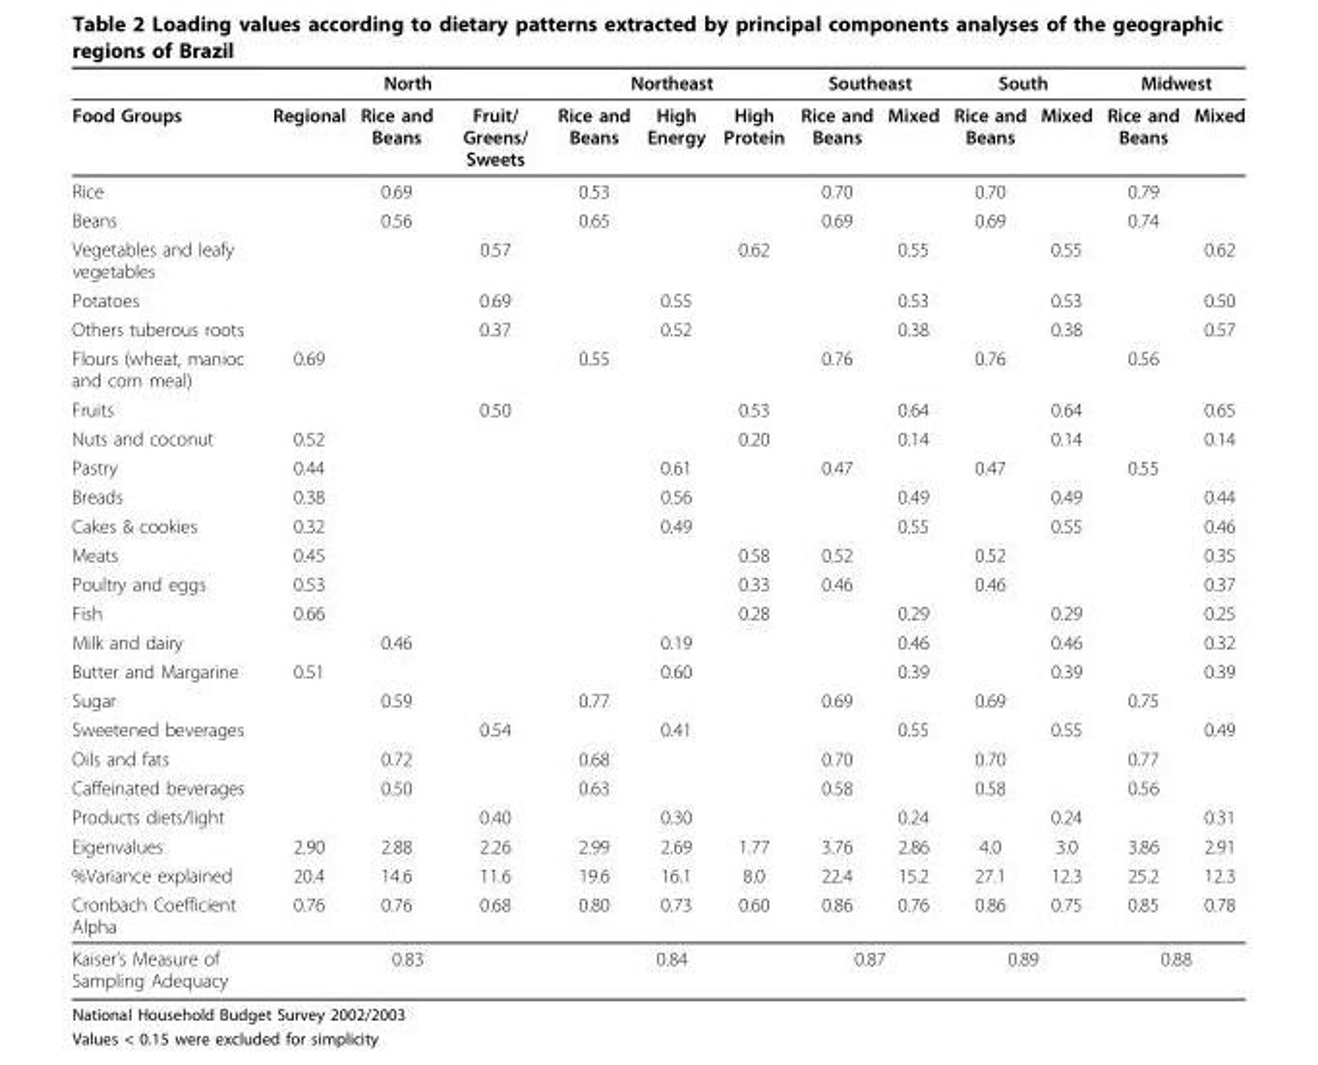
<table><thead><tr><td rowspan="2">Food Groups</td><td colspan="3">North</td><td colspan="3">Northeast</td><td colspan="2">Southeast</td><td colspan="2">South</td><td colspan="2">Midwest</td></tr><tr><td>Regional</td><td>Rice and Beans</td><td>Fruit/ Greens/ Sweets</td><td>Rice and Beans</td><td>High Energy</td><td>High Protein</td><td>Rice and Beans</td><td>Mixed</td><td>Rice and Beans</td><td>Mixed</td><td>Rice and Beans</td><td>Mixed</td></tr></thead><tbody><tr><td>Rice</td><td></td><td>0.69</td><td></td><td>0.53</td><td></td><td></td><td>0.70</td><td></td><td>0.70</td><td></td><td>0.79</td><td></td></tr><tr><td>Beans</td><td></td><td>0.56</td><td></td><td>0.65</td><td></td><td></td><td>0.69</td><td></td><td>0.69</td><td></td><td>0.74</td><td></td></tr><tr><td>Vegetables and leafy vegetables</td><td></td><td></td><td>0.57</td><td></td><td></td><td>0.62</td><td></td><td>0.55</td><td></td><td>0.55</td><td></td><td>0.62</td></tr><tr><td>Potatoes</td><td></td><td></td><td>0.69</td><td></td><td>0.55</td><td></td><td></td><td>0.53</td><td></td><td>0.53</td><td></td><td>0.50</td></tr><tr><td>Others tuberous roots</td><td></td><td></td><td>0.37</td><td></td><td>0.52</td><td></td><td></td><td>0.38</td><td></td><td>0.38</td><td></td><td>0.57</td></tr><tr><td>Flours (wheat, manioc and corn meal)</td><td>0.69</td><td></td><td></td><td>0.55</td><td></td><td></td><td>0.76</td><td></td><td>0.76</td><td></td><td>0.56</td><td></td></tr><tr><td>Fruits</td><td></td><td></td><td>0.50</td><td></td><td></td><td>0.53</td><td></td><td>0.64</td><td></td><td>0.64</td><td></td><td>0.65</td></tr><tr><td>Nuts and coconut</td><td>0.52</td><td></td><td></td><td></td><td></td><td>0.20</td><td></td><td>0.14</td><td></td><td>0.14</td><td></td><td>0.14</td></tr><tr><td>Pastry</td><td>0.44</td><td></td><td></td><td></td><td>0.61</td><td></td><td>0.47</td><td></td><td>0.47</td><td></td><td>0.55</td><td></td></tr><tr><td>Breads</td><td>0.38</td><td></td><td></td><td></td><td>0.56</td><td></td><td></td><td>0.49</td><td></td><td>0.49</td><td></td><td>0.44</td></tr><tr><td>Cakes &amp; cookies</td><td>0.32</td><td></td><td></td><td></td><td>0.49</td><td></td><td></td><td>0.55</td><td></td><td>0.55</td><td></td><td>0.46</td></tr><tr><td>Meats</td><td>0.45</td><td></td><td></td><td></td><td></td><td>0.58</td><td>0.52</td><td></td><td>0.52</td><td></td><td></td><td>0.35</td></tr><tr><td>Poultry and eggs</td><td>0.53</td><td></td><td></td><td></td><td></td><td>0.33</td><td>0.46</td><td></td><td>0.46</td><td></td><td></td><td>0.37</td></tr><tr><td>Fish</td><td>0.66</td><td></td><td></td><td></td><td></td><td>0.28</td><td></td><td>0.29</td><td></td><td>0.29</td><td></td><td>0.25</td></tr><tr><td>Milk and dairy</td><td></td><td>0.46</td><td></td><td></td><td>0.19</td><td></td><td></td><td>0.46</td><td></td><td>0.46</td><td></td><td>0.32</td></tr><tr><td>Butter and Margarine</td><td>0.51</td><td></td><td></td><td></td><td>0.60</td><td></td><td></td><td>0.39</td><td></td><td>0.39</td><td></td><td>0.39</td></tr><tr><td>Sugar</td><td></td><td>0.59</td><td></td><td>0.77</td><td></td><td></td><td>0.69</td><td></td><td>0.69</td><td></td><td>0.75</td><td></td></tr><tr><td>Sweetened beverages</td><td></td><td></td><td>0.54</td><td></td><td>0.41</td><td></td><td></td><td>0.55</td><td></td><td>0.55</td><td></td><td>0.49</td></tr><tr><td>Oils and fats</td><td></td><td>0.72</td><td></td><td>0.68</td><td></td><td></td><td>0.70</td><td></td><td>0.70</td><td></td><td>0.77</td><td></td></tr><tr><td>Caffeinated beverages</td><td></td><td>0.50</td><td></td><td>0.63</td><td></td><td></td><td>0.58</td><td></td><td>0.58</td><td></td><td>0.56</td><td></td></tr><tr><td>Products diets/light</td><td></td><td></td><td>0.40</td><td></td><td>0.30</td><td></td><td></td><td>0.24</td><td></td><td>0.24</td><td></td><td>0.31</td></tr><tr><td>Eigenvalues</td><td>2.90</td><td>2.88</td><td>2.26</td><td>2.99</td><td>2.69</td><td>1.77</td><td>3.76</td><td>2.86</td><td>4.0</td><td>3.0</td><td>3.86</td><td>2.91</td></tr><tr><td>%Variance explained</td><td>20.4</td><td>14.6</td><td>11.6</td><td>19.6</td><td>16.1</td><td>8.0</td><td>22.4</td><td>15.2</td><td>27.1</td><td>12.3</td><td>25.2</td><td>12.3</td></tr><tr><td>Cronbach Coefficient Alpha</td><td>0.76</td><td>0.76</td><td>0.68</td><td>0.80</td><td>0.73</td><td>0.60</td><td>0.86</td><td>0.76</td><td>0.86</td><td>0.75</td><td>0.85</td><td>0.78</td></tr><tr><td>Kaiser’s Measure of Sampling Adequacy</td><td colspan="3">0.83</td><td colspan="3">0.84</td><td colspan="2">0.87</td><td colspan="2">0.89</td><td colspan="2">0.88</td></tr></tbody></table>